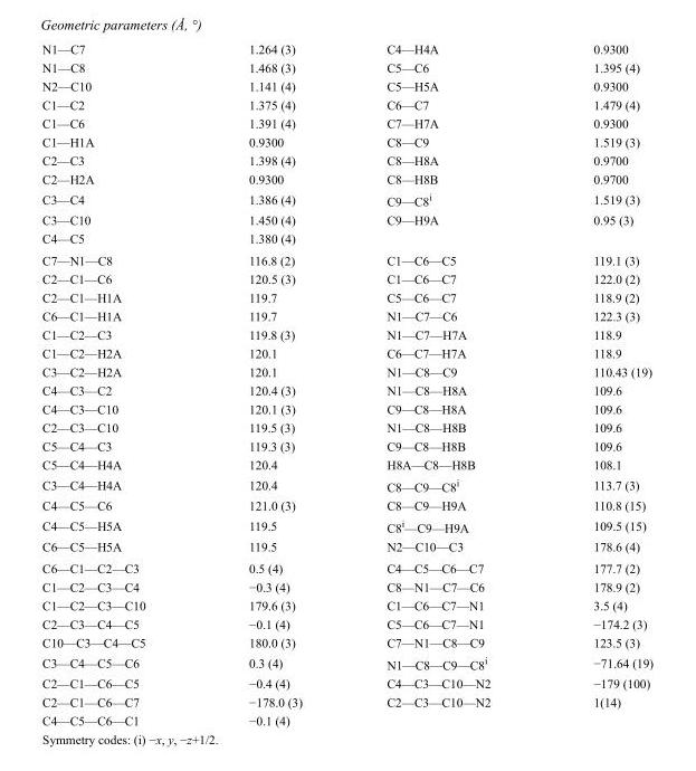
<table><tbody><tr><td>N1—C7</td><td>1.264 (3)</td><td>C4—H4A</td><td>0.9300</td></tr><tr><td>N1—C8</td><td>1.468 (3)</td><td>C5—C6</td><td>1.395 (4)</td></tr><tr><td>N2—C10</td><td>1.141 (4)</td><td>C5—H5A</td><td>0.9300</td></tr><tr><td>C1—C2</td><td>1.375 (4)</td><td>C6—C7</td><td>1.479 (4)</td></tr><tr><td>C1—C6</td><td>1.391 (4)</td><td>C7—H7A</td><td>0.9300</td></tr><tr><td>C1—H1A</td><td>0.9300</td><td>C8—C9</td><td>1.519 (3)</td></tr><tr><td>C2—C3</td><td>1.398 (4)</td><td>C8—H8A</td><td>0.9700</td></tr><tr><td>C2—H2A</td><td>0.9300</td><td>C8—H8B</td><td>0.9700</td></tr><tr><td>C3—C4</td><td>1.386 (4)</td><td>C9—C8<sup>i</sup></td><td>1.519 (3)</td></tr><tr><td>C3—C10</td><td>1.450 (4)</td><td>C9—H9A</td><td>0.95 (3)</td></tr><tr><td>C4—C5</td><td>1.380 (4)</td><td></td><td></td></tr><tr><td>C7—N1—C8</td><td>116.8 (2)</td><td>C1—C6—C5</td><td>119.1 (3)</td></tr><tr><td>C2—C1—C6</td><td>120.5 (3)</td><td>C1—C6—C7</td><td>122.0 (2)</td></tr><tr><td>C2—C1—H1A</td><td>119.7</td><td>C5—C6—C7</td><td>118.9 (2)</td></tr><tr><td>C6—C1—H1A</td><td>119.7</td><td>N1—C7—C6</td><td>122.3 (3)</td></tr><tr><td>C1—C2—C3</td><td>119.8 (3)</td><td>N1—C7—H7A</td><td>118.9</td></tr><tr><td>C1—C2—H2A</td><td>120.1</td><td>C6—C7—H7A</td><td>118.9</td></tr><tr><td>C3—C2—H2A</td><td>120.1</td><td>N1—C8—C9</td><td>110.43 (19)</td></tr><tr><td>C4—C3—C2</td><td>120.4 (3)</td><td>N1—C8—H8A</td><td>109.6</td></tr><tr><td>C4—C3—C10</td><td>120.1 (3)</td><td>C9—C8—H8A</td><td>109.6</td></tr><tr><td>C2—C3—C10</td><td>119.5 (3)</td><td>N1—C8—H8B</td><td>109.6</td></tr><tr><td>C5—C4—C3</td><td>119.3 (3)</td><td>C9—C8—H8B</td><td>109.6</td></tr><tr><td>C5—C4—H4A</td><td>120.4</td><td>H8A—C8—H8B</td><td>108.1</td></tr><tr><td>C3—C4—H4A</td><td>120.4</td><td>C8—C9—C8<sup>i</sup></td><td>113.7 (3)</td></tr><tr><td>C4—C5—C6</td><td>121.0 (3)</td><td>C8—C9—H9A</td><td>110.8 (15)</td></tr><tr><td>C4—C5—H5A</td><td>119.5</td><td>C8<sup>i</sup>—C9—H9A</td><td>109.5 (15)</td></tr><tr><td>C6—C5—H5A</td><td>119.5</td><td>N2—C10—C3</td><td>178.6 (4)</td></tr><tr><td>C6—C1—C2—C3</td><td>0.5 (4)</td><td>C4—C5—C6—C7</td><td>177.7 (2)</td></tr><tr><td>C1—C2—C3—C4</td><td>−0.3 (4)</td><td>C8—N1—C7—C6</td><td>178.9 (2)</td></tr><tr><td>C1—C2—C3—C10</td><td>179.6 (3)</td><td>C1—C6—C7—N1</td><td>3.5 (4)</td></tr><tr><td>C2—C3—C4—C5</td><td>−0.1 (4)</td><td>C5—C6—C7—N1</td><td>−174.2 (3)</td></tr><tr><td>C10—C3—C4—C5</td><td>180.0 (3)</td><td>C7—N1—C8—C9</td><td>123.5 (3)</td></tr><tr><td>C3—C4—C5—C6</td><td>0.3 (4)</td><td>N1—C8—C9—C8<sup>i</sup></td><td>−71.64 (19)</td></tr><tr><td>C2—C1—C6—C5</td><td>−0.4 (4)</td><td>C4—C3—C10—N2</td><td>−179 (100)</td></tr><tr><td>C2—C1—C6—C7</td><td>−178.0 (3)</td><td>C2—C3—C10—N2</td><td>1(14)</td></tr><tr><td>C4—C5—C6—C1</td><td>−0.1 (4)</td><td></td><td></td></tr></tbody></table>